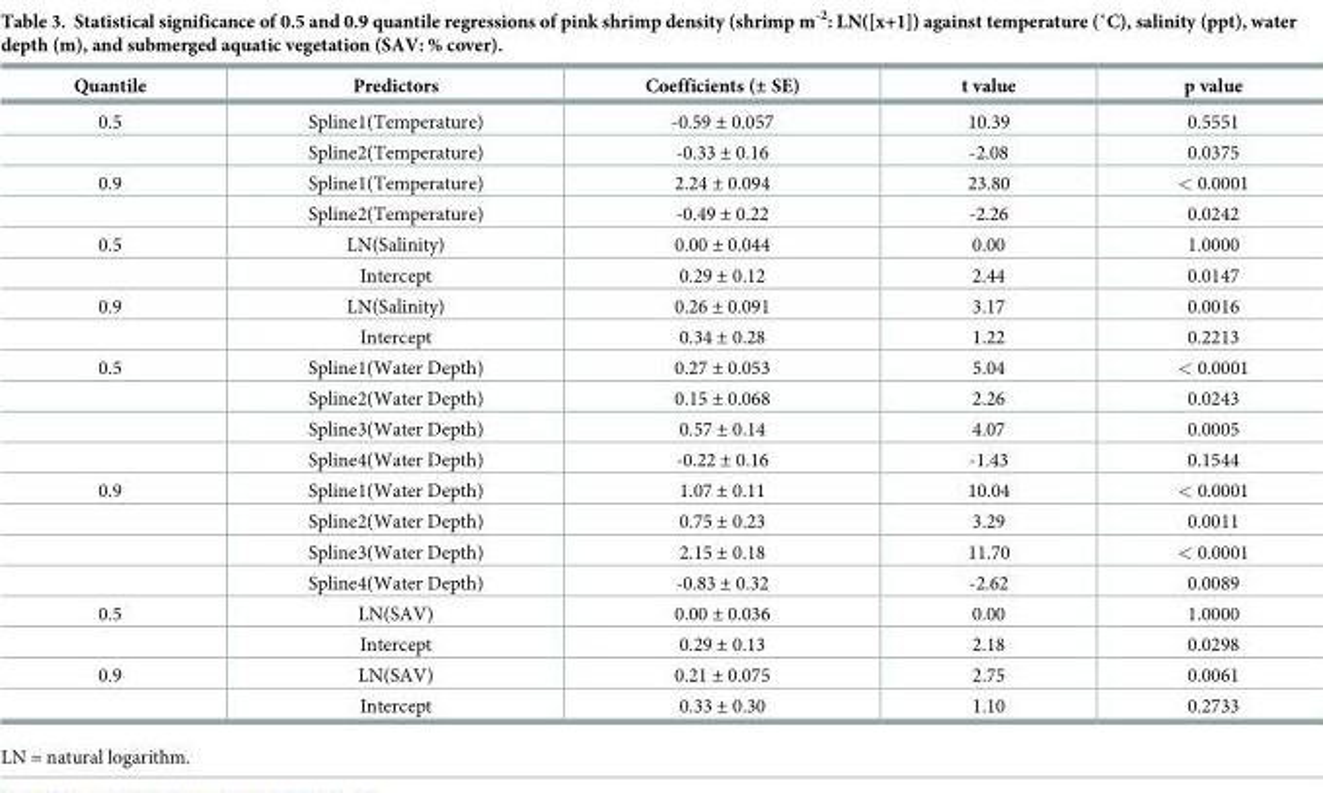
<table><thead><tr><td>Quantile</td><td>Predictors</td><td>Coefficients (± SE)</td><td>t value</td><td>p value</td></tr></thead><tbody><tr><td rowspan="2">0.5</td><td>Spline1(Temperature)</td><td>-0.59 ± 0.057</td><td>10.39</td><td>0.5551</td></tr><tr><td>Spline2(Temperature)</td><td>-0.33 ± 0.16</td><td>-2.08</td><td>0.0375</td></tr><tr><td rowspan="2">0.9</td><td>Spline1(Temperature)</td><td>2.24 ± 0.094</td><td>23.80</td><td>&lt; 0.0001</td></tr><tr><td>Spline2(Temperature)</td><td>-0.49 ± 0.22</td><td>-2.26</td><td>0.0242</td></tr><tr><td rowspan="2">0.5</td><td>LN(Salinity)</td><td>0.00 ± 0.044</td><td>0.00</td><td>1.0000</td></tr><tr><td>Intercept</td><td>0.29 ± 0.12</td><td>2.44</td><td>0.0147</td></tr><tr><td rowspan="2">0.9</td><td>LN(Salinity)</td><td>0.26 ± 0.091</td><td>3.17</td><td>0.0016</td></tr><tr><td>Intercept</td><td>0.34 ± 0.28</td><td>1.22</td><td>0.2213</td></tr><tr><td rowspan="4">0.5</td><td>Spline1(Water Depth)</td><td>0.27 ± 0.053</td><td>5.04</td><td>&lt; 0.0001</td></tr><tr><td>Spline2(Water Depth)</td><td>0.15 ± 0.068</td><td>2.26</td><td>0.0243</td></tr><tr><td>Spline3(Water Depth)</td><td>0.57 ± 0.14</td><td>4.07</td><td>0.0005</td></tr><tr><td>Spline4(Water Depth)</td><td>-0.22 ± 0.16</td><td>-1.43</td><td>0.1544</td></tr><tr><td rowspan="4">0.9</td><td>Spline1(Water Depth)</td><td>1.07 ± 0.11</td><td>10.04</td><td>&lt; 0.0001</td></tr><tr><td>Spline2(Water Depth)</td><td>0.75 ± 0.23</td><td>3.29</td><td>0.0011</td></tr><tr><td>Spline3(Water Depth)</td><td>2.15 ± 0.18</td><td>11.70</td><td>&lt; 0.0001</td></tr><tr><td>Spline4(Water Depth)</td><td>-0.83 ± 0.32</td><td>-2.62</td><td>0.0089</td></tr><tr><td rowspan="2">0.5</td><td>LN(SAV)</td><td>0.00 ± 0.036</td><td>0.00</td><td>1.0000</td></tr><tr><td>Intercept</td><td>0.29 ± 0.13</td><td>2.18</td><td>0.0298</td></tr><tr><td rowspan="2">0.9</td><td>LN(SAV)</td><td>0.21 ± 0.075</td><td>2.75</td><td>0.0061</td></tr><tr><td>Intercept</td><td>0.33 ± 0.30</td><td>1.10</td><td>0.2733</td></tr></tbody></table>